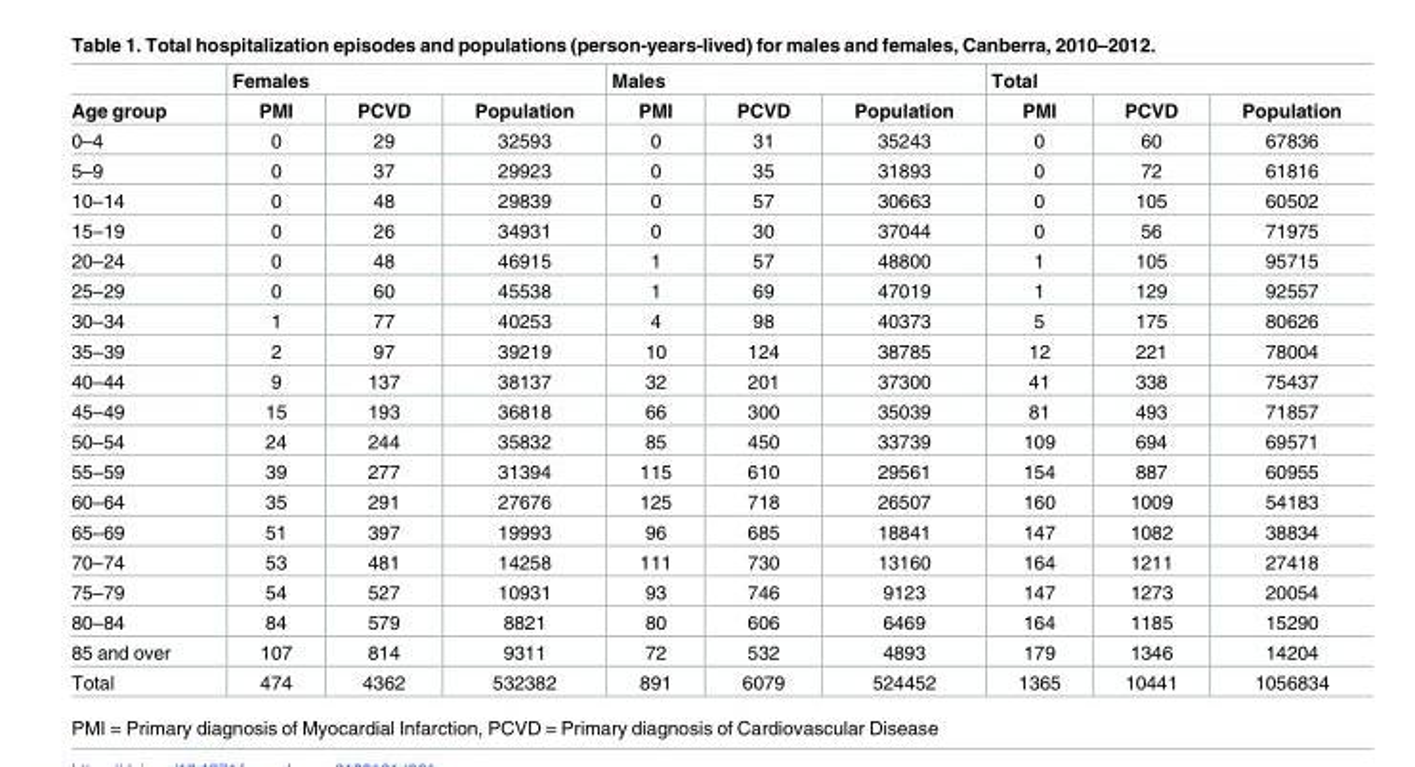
<table><thead><tr><td rowspan="2">Age group</td><td colspan="3">Females</td><td colspan="3">Males</td><td colspan="3">Total</td></tr><tr><td>PMI</td><td>PCVD</td><td>Population</td><td>PMI</td><td>PCVD</td><td>Population</td><td>PMI</td><td>PCVD</td><td>Population</td></tr></thead><tbody><tr><td>0–4</td><td>0</td><td>29</td><td>32593</td><td>0</td><td>31</td><td>35243</td><td>0</td><td>60</td><td>67836</td></tr><tr><td>5–9</td><td>0</td><td>37</td><td>29923</td><td>0</td><td>35</td><td>31893</td><td>0</td><td>72</td><td>61816</td></tr><tr><td>10–14</td><td>0</td><td>48</td><td>29839</td><td>0</td><td>57</td><td>30663</td><td>0</td><td>105</td><td>60502</td></tr><tr><td>15–19</td><td>0</td><td>26</td><td>34931</td><td>0</td><td>30</td><td>37044</td><td>0</td><td>56</td><td>71975</td></tr><tr><td>20–24</td><td>0</td><td>48</td><td>46915</td><td>1</td><td>57</td><td>48800</td><td>1</td><td>105</td><td>95715</td></tr><tr><td>25–29</td><td>0</td><td>60</td><td>45538</td><td>1</td><td>69</td><td>47019</td><td>1</td><td>129</td><td>92557</td></tr><tr><td>30–34</td><td>1</td><td>77</td><td>40253</td><td>4</td><td>98</td><td>40373</td><td>5</td><td>175</td><td>80626</td></tr><tr><td>35–39</td><td>2</td><td>97</td><td>39219</td><td>10</td><td>124</td><td>38785</td><td>12</td><td>221</td><td>78004</td></tr><tr><td>40–44</td><td>9</td><td>137</td><td>38137</td><td>32</td><td>201</td><td>37300</td><td>41</td><td>338</td><td>75437</td></tr><tr><td>45–49</td><td>15</td><td>193</td><td>36818</td><td>66</td><td>300</td><td>35039</td><td>81</td><td>493</td><td>71857</td></tr><tr><td>50–54</td><td>24</td><td>244</td><td>35832</td><td>85</td><td>450</td><td>33739</td><td>109</td><td>694</td><td>69571</td></tr><tr><td>55–59</td><td>39</td><td>277</td><td>31394</td><td>115</td><td>610</td><td>29561</td><td>154</td><td>887</td><td>60955</td></tr><tr><td>60–64</td><td>35</td><td>291</td><td>27676</td><td>125</td><td>718</td><td>26507</td><td>160</td><td>1009</td><td>54183</td></tr><tr><td>65–69</td><td>51</td><td>397</td><td>19993</td><td>96</td><td>685</td><td>18841</td><td>147</td><td>1082</td><td>38834</td></tr><tr><td>70–74</td><td>53</td><td>481</td><td>14258</td><td>111</td><td>730</td><td>13160</td><td>164</td><td>1211</td><td>27418</td></tr><tr><td>75–79</td><td>54</td><td>527</td><td>10931</td><td>93</td><td>746</td><td>9123</td><td>147</td><td>1273</td><td>20054</td></tr><tr><td>80–84</td><td>84</td><td>579</td><td>8821</td><td>80</td><td>606</td><td>6469</td><td>164</td><td>1185</td><td>15290</td></tr><tr><td>85 and over</td><td>107</td><td>814</td><td>9311</td><td>72</td><td>532</td><td>4893</td><td>179</td><td>1346</td><td>14204</td></tr><tr><td>Total</td><td>474</td><td>4362</td><td>532382</td><td>891</td><td>6079</td><td>524452</td><td>1365</td><td>10441</td><td>1056834</td></tr></tbody></table>